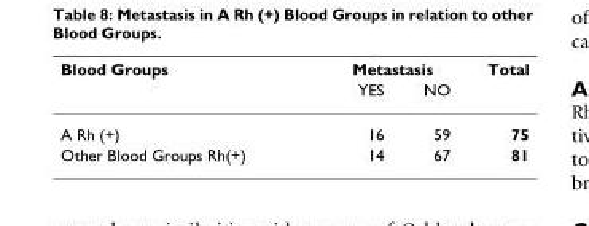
<table><thead><tr><td rowspan="2">Blood Groups</td><td colspan="2">Metastasis</td><td rowspan="2">Total</td></tr><tr><td>YES</td><td>NO</td></tr></thead><tbody><tr><td>A Rh (+)</td><td>16</td><td>59</td><td>75</td></tr><tr><td>Other Blood Groups Rh(+)</td><td>14</td><td>67</td><td>81</td></tr></tbody></table>